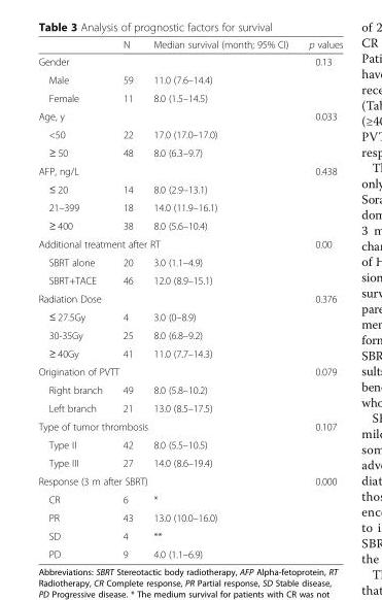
<table><thead><tr><td></td><td>N</td><td>Median survival (month; 95% CI)</td><td>p values</td></tr></thead><tbody><tr><td colspan="3">Gender</td><td>0.13</td></tr><tr><td>Male</td><td>59</td><td>11.0 (7.6–14.4)</td><td></td></tr><tr><td>Female</td><td>11</td><td>8.0 (1.5–14.5)</td><td></td></tr><tr><td colspan="3">Age, y</td><td>0.033</td></tr><tr><td>&lt;50</td><td>22</td><td>17.0 (17.0–17.0)</td><td></td></tr><tr><td>≥ 50</td><td>48</td><td>8.0 (6.3–9.7)</td><td></td></tr><tr><td colspan="3">AFP, ng/L</td><td>0.438</td></tr><tr><td>≤ 20</td><td>14</td><td>8.0 (2.9–13.1)</td><td></td></tr><tr><td>21–399</td><td>18</td><td>14.0 (11.9–16.1)</td><td></td></tr><tr><td>≥ 400</td><td>38</td><td>8.0 (5.6–10.4)</td><td></td></tr><tr><td colspan="3">Additional treatment after RT</td><td>0.00</td></tr><tr><td>SBRT alone</td><td>20</td><td>3.0 (1.1–4.9)</td><td></td></tr><tr><td>SBRT+TACE</td><td>46</td><td>12.0 (8.9–15.1)</td><td></td></tr><tr><td colspan="3">Radiation Dose</td><td>0.376</td></tr><tr><td>≤ 27.5Gy</td><td>4</td><td>3.0 (0–8.9)</td><td></td></tr><tr><td>30-35Gy</td><td>25</td><td>8.0 (6.8–9.2)</td><td></td></tr><tr><td>≥ 40Gy</td><td>41</td><td>11.0 (7.7–14.3)</td><td></td></tr><tr><td colspan="3">Origination of PVTT</td><td>0.079</td></tr><tr><td>Right branch</td><td>49</td><td>8.0 (5.8–10.2)</td><td></td></tr><tr><td>Left branch</td><td>21</td><td>13.0 (8.5–17.5)</td><td></td></tr><tr><td colspan="3">Type of tumor thrombosis</td><td>0.107</td></tr><tr><td>Type II</td><td>42</td><td>8.0 (5.5–10.5)</td><td></td></tr><tr><td>Type III</td><td>27</td><td>14.0 (8.6–19.4)</td><td></td></tr><tr><td colspan="3">Response (3 m after SBRT)</td><td>0.000</td></tr><tr><td>CR</td><td>6</td><td>*</td><td></td></tr><tr><td>PR</td><td>43</td><td>13.0 (10.0–16.0)</td><td></td></tr><tr><td>SD</td><td>4</td><td>**</td><td></td></tr><tr><td>PD</td><td>9</td><td>4.0 (1.1–6.9)</td><td></td></tr></tbody></table>